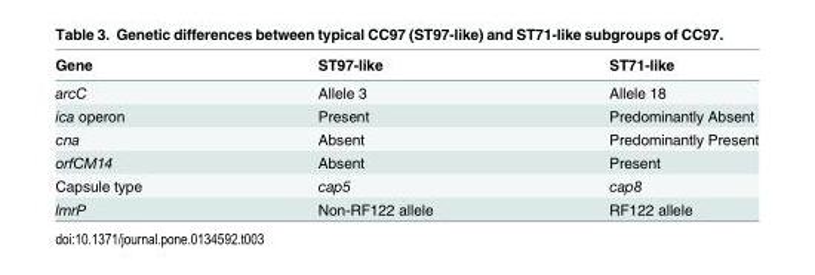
<table><thead><tr><td>Gene</td><td>ST97-like</td><td>ST71-like</td></tr></thead><tbody><tr><td>arcC</td><td>Allele 3</td><td>Allele 18</td></tr><tr><td>ica operon</td><td>Present</td><td>Predominantly Absent</td></tr><tr><td>cna</td><td>Absent</td><td>Predominantly Present</td></tr><tr><td>orfCM14</td><td>Absent</td><td>Present</td></tr><tr><td>Capsule type</td><td>cap5</td><td>cap8</td></tr><tr><td>lmrP</td><td>Non-RF122 allele</td><td>RF122 allele</td></tr></tbody></table>